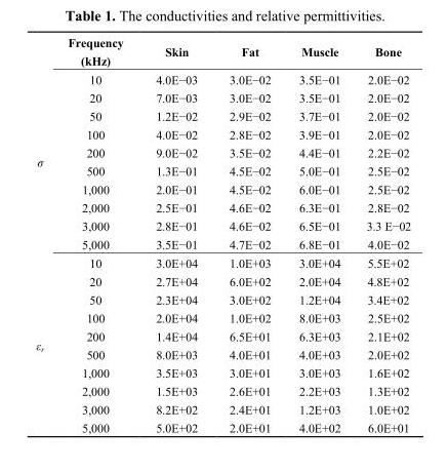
<table><thead><tr><td></td><td>Frequency (kHz)</td><td>Skin</td><td>Fat</td><td>Muscle</td><td>Bone</td></tr></thead><tbody><tr><td rowspan="10">σ</td><td>10</td><td>4.0E−03</td><td>3.0E−02</td><td>3.5E−01</td><td>2.0E−02</td></tr><tr><td>20</td><td>7.0E−03</td><td>3.0E−02</td><td>3.5E−01</td><td>2.0E−02</td></tr><tr><td>50</td><td>1.2E−02</td><td>2.9E−02</td><td>3.7E−01</td><td>2.0E−02</td></tr><tr><td>100</td><td>4.0E−02</td><td>2.8E−02</td><td>3.9E−01</td><td>2.0E−02</td></tr><tr><td>200</td><td>9.0E−02</td><td>3.5E−02</td><td>4.4E−01</td><td>2.2E−02</td></tr><tr><td>500</td><td>1.3E−01</td><td>4.5E−02</td><td>5.0E−01</td><td>2.5E−02</td></tr><tr><td>1,000</td><td>2.0E−01</td><td>4.5E−02</td><td>6.0E−01</td><td>2.5E−02</td></tr><tr><td>2,000</td><td>2.5E−01</td><td>4.6E−02</td><td>6.3E−01</td><td>2.8E−02</td></tr><tr><td>3,000</td><td>2.8E−01</td><td>4.6E−02</td><td>6.5E−01</td><td>3.3 E−02</td></tr><tr><td>5,000</td><td>3.5E−01</td><td>4.7E−02</td><td>6.8E−01</td><td>4.0E−02</td></tr><tr><td rowspan="10">ε<sub>r</sub></td><td>10</td><td>3.0E+04</td><td>1.0E+03</td><td>3.0E+04</td><td>5.5E+02</td></tr><tr><td>20</td><td>2.7E+04</td><td>6.0E+02</td><td>2.0E+04</td><td>4.8E+02</td></tr><tr><td>50</td><td>2.3E+04</td><td>3.0E+02</td><td>1.2E+04</td><td>3.4E+02</td></tr><tr><td>100</td><td>2.0E+04</td><td>1.0E+02</td><td>8.0E+03</td><td>2.5E+02</td></tr><tr><td>200</td><td>1.4E+04</td><td>6.5E+01</td><td>6.3E+03</td><td>2.1E+02</td></tr><tr><td>500</td><td>8.0E+03</td><td>4.0E+01</td><td>4.0E+03</td><td>2.0E+02</td></tr><tr><td>1,000</td><td>3.5E+03</td><td>3.0E+01</td><td>3.0E+03</td><td>1.6E+02</td></tr><tr><td>2,000</td><td>1.5E+03</td><td>2.6E+01</td><td>2.2E+03</td><td>1.3E+02</td></tr><tr><td>3,000</td><td>8.2E+02</td><td>2.4E+01</td><td>1.2E+03</td><td>1.0E+02</td></tr><tr><td>5,000</td><td>5.0E+02</td><td>2.0E+01</td><td>4.0E+02</td><td>6.0E+01</td></tr></tbody></table>